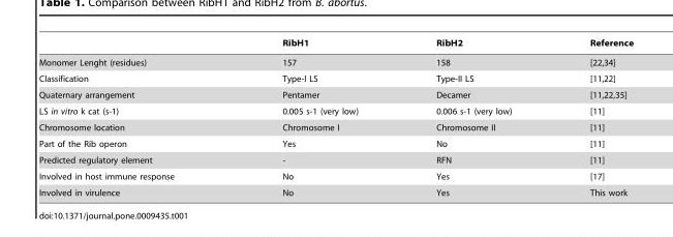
<table><thead><tr><td></td><td>RibH1</td><td>RibH2</td><td>Reference</td></tr></thead><tbody><tr><td>Monomer Lenght (residues)</td><td>157</td><td>158</td><td>[22,34]</td></tr><tr><td>Classification</td><td>Type-I LS</td><td>Type-II LS</td><td>[11,22]</td></tr><tr><td>Quaternary arrangement</td><td>Pentamer</td><td>Decamer</td><td>[11,22,35]</td></tr><tr><td>LS in vitro k cat (s-1)</td><td>0.005 s-1 (very low)</td><td>0.006 s-1 (very low)</td><td>[11]</td></tr><tr><td>Chromosome location</td><td>Chromosome I</td><td>Chromosome II</td><td>[11]</td></tr><tr><td>Part of the Rib operon</td><td>Yes</td><td>No</td><td>[11]</td></tr><tr><td>Predicted regulatory element</td><td>-</td><td>RFN</td><td>[11]</td></tr><tr><td>Involved in host immune response</td><td>No</td><td>Yes</td><td>[17]</td></tr><tr><td>Involved in virulence</td><td>No</td><td>Yes</td><td>This work</td></tr></tbody></table>